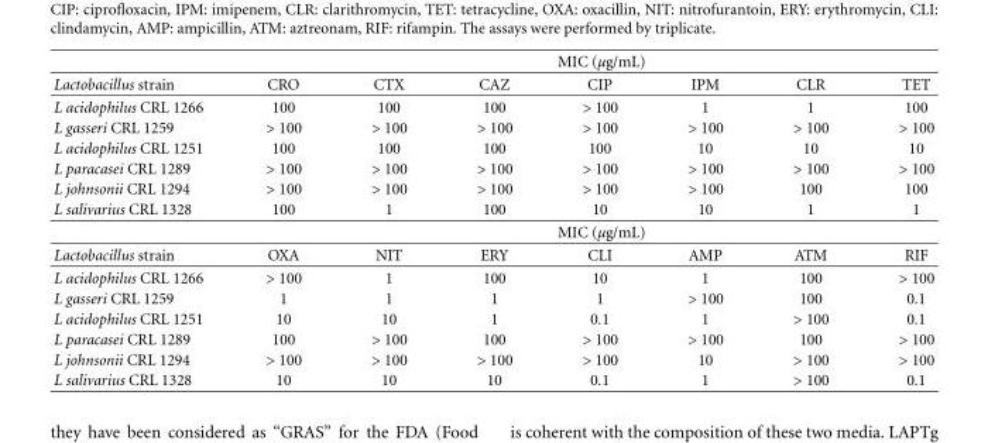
<table><thead><tr><td rowspan="2">Lactobacillus strain</td><td colspan="7">MIC (µg/mL)</td></tr><tr><td>CRO</td><td>CTX</td><td>CAZ</td><td>CIP</td><td>IPM</td><td>CLR</td><td>TET</td></tr></thead><tbody><tr><td>L acidophilus CRL 1266</td><td>100</td><td>100</td><td>100</td><td>&gt; 100</td><td>1</td><td>1</td><td>100</td></tr><tr><td>L gasseri CRL 1259</td><td>&gt; 100</td><td>&gt; 100</td><td>&gt; 100</td><td>&gt; 100</td><td>&gt; 100</td><td>&gt; 100</td><td>&gt; 100</td></tr><tr><td>L acidophilus CRL 1251</td><td>100</td><td>100</td><td>100</td><td>100</td><td>10</td><td>10</td><td>10</td></tr><tr><td>L paracasei CRL 1289</td><td>&gt; 100</td><td>&gt; 100</td><td>&gt; 100</td><td>&gt; 100</td><td>&gt; 100</td><td>&gt; 100</td><td>&gt; 100</td></tr><tr><td>L johnsonii CRL 1294</td><td>&gt; 100</td><td>&gt; 100</td><td>&gt; 100</td><td>&gt; 100</td><td>&gt; 100</td><td>100</td><td>100</td></tr><tr><td rowspan="2">L salivarius CRL 1328</td><td>100</td><td>1</td><td>100</td><td>10</td><td>10</td><td>1</td><td>1</td></tr><tr><td colspan="7">MIC (µg/mL)</td></tr><tr><td>Lactobacillus strain</td><td>OXA</td><td>NIT</td><td>ERY</td><td>CLI</td><td>AMP</td><td>ATM</td><td>RIF</td></tr><tr><td>L acidophilus CRL 1266</td><td>&gt; 100</td><td>1</td><td>100</td><td>10</td><td>1</td><td>100</td><td>&gt; 100</td></tr><tr><td>L gasseri CRL 1259</td><td>1</td><td>1</td><td>1</td><td>1</td><td>&gt; 100</td><td>100</td><td>0.1</td></tr><tr><td>L acidophilus CRL 1251</td><td>10</td><td>10</td><td>1</td><td>0.1</td><td>1</td><td>&gt; 100</td><td>0.1</td></tr><tr><td>L paracasei CRL 1289</td><td>100</td><td>&gt; 100</td><td>100</td><td>&gt; 100</td><td>&gt; 100</td><td>100</td><td>&gt; 100</td></tr><tr><td>L johnsonii CRL 1294</td><td>&gt; 100</td><td>&gt; 100</td><td>&gt; 100</td><td>&gt; 100</td><td>10</td><td>&gt; 100</td><td>&gt; 100</td></tr><tr><td>L salivarius CRL 1328</td><td>10</td><td>10</td><td>10</td><td>0.1</td><td>1</td><td>&gt; 100</td><td>0.1</td></tr></tbody></table>